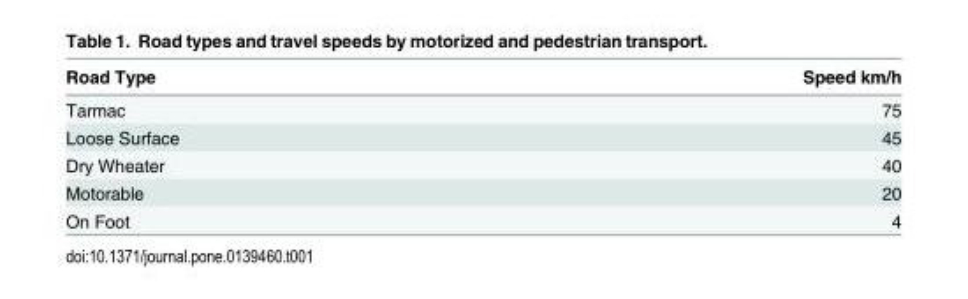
<table><thead><tr><td>Road Type</td><td>Speed km/h</td></tr></thead><tbody><tr><td>Tarmac</td><td>75</td></tr><tr><td>Loose Surface</td><td>45</td></tr><tr><td>Dry Wheater</td><td>40</td></tr><tr><td>Motorable</td><td>20</td></tr><tr><td>On Foot</td><td>4</td></tr></tbody></table>